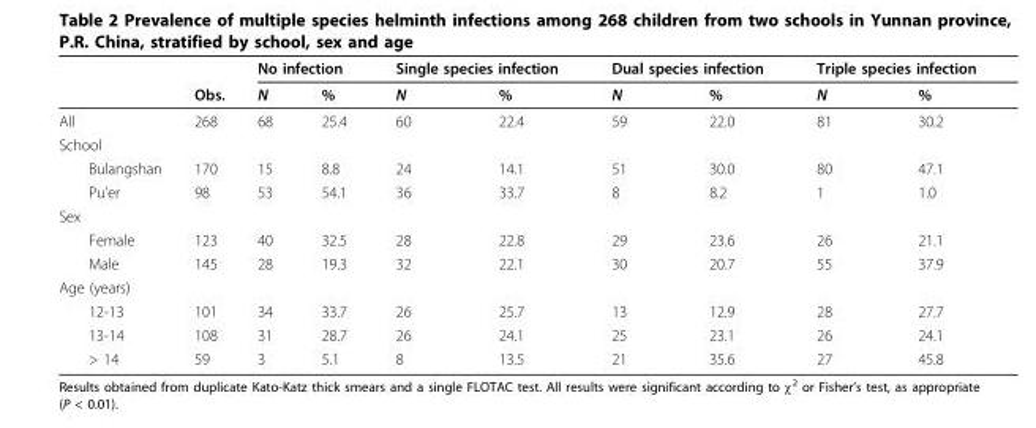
<table><thead><tr><td rowspan="2"></td><td rowspan="2">Obs.</td><td colspan="2">No infection</td><td colspan="2">Single species infection</td><td colspan="2">Dual species infection</td><td colspan="2">Triple species infection</td></tr><tr><td>N</td><td>%</td><td>N</td><td>%</td><td>N</td><td>%</td><td>N</td><td>%</td></tr></thead><tbody><tr><td>All</td><td>268</td><td>68</td><td>25.4</td><td>60</td><td>22.4</td><td>59</td><td>22.0</td><td>81</td><td>30.2</td></tr><tr><td colspan="10">School</td></tr><tr><td>Bulangshan</td><td>170</td><td>15</td><td>8.8</td><td>24</td><td>14.1</td><td>51</td><td>30.0</td><td>80</td><td>47.1</td></tr><tr><td>Pu’er</td><td>98</td><td>53</td><td>54.1</td><td>36</td><td>33.7</td><td>8</td><td>8.2</td><td>1</td><td>1.0</td></tr><tr><td colspan="10">Sex</td></tr><tr><td>Female</td><td>123</td><td>40</td><td>32.5</td><td>28</td><td>22.8</td><td>29</td><td>23.6</td><td>26</td><td>21.1</td></tr><tr><td>Male</td><td>145</td><td>28</td><td>19.3</td><td>32</td><td>22.1</td><td>30</td><td>20.7</td><td>55</td><td>37.9</td></tr><tr><td colspan="10">Age (years)</td></tr><tr><td>12-13</td><td>101</td><td>34</td><td>33.7</td><td>26</td><td>25.7</td><td>13</td><td>12.9</td><td>28</td><td>27.7</td></tr><tr><td>13-14</td><td>108</td><td>31</td><td>28.7</td><td>26</td><td>24.1</td><td>25</td><td>23.1</td><td>26</td><td>24.1</td></tr><tr><td>&gt; 14</td><td>59</td><td>3</td><td>5.1</td><td>8</td><td>13.5</td><td>21</td><td>35.6</td><td>27</td><td>45.8</td></tr></tbody></table>